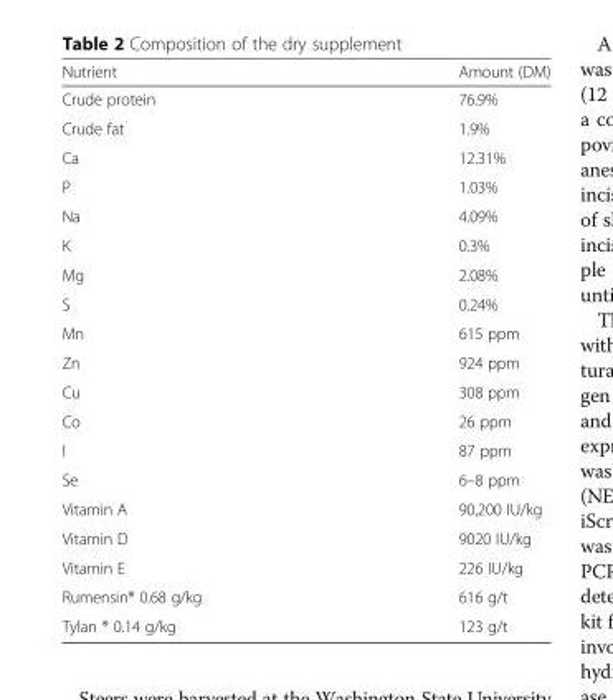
<table><thead><tr><td>Nutrient</td><td>Amount (DM)</td></tr></thead><tbody><tr><td>Crude protein</td><td>76.9%</td></tr><tr><td>Crude fat</td><td>1.9%</td></tr><tr><td>Ca</td><td>12.31%</td></tr><tr><td>P</td><td>1.03%</td></tr><tr><td>Na</td><td>4.09%</td></tr><tr><td>K</td><td>0.3%</td></tr><tr><td>Mg</td><td>2.08%</td></tr><tr><td>S</td><td>0.24%</td></tr><tr><td>Mn</td><td>615 ppm</td></tr><tr><td>Zn</td><td>924 ppm</td></tr><tr><td>Cu</td><td>308 ppm</td></tr><tr><td>Co</td><td>26 ppm</td></tr><tr><td>I</td><td>87 ppm</td></tr><tr><td>Se</td><td>6–8 ppm</td></tr><tr><td>Vitamin A</td><td>90,200 IU/kg</td></tr><tr><td>Vitamin D</td><td>9020 IU/kg</td></tr><tr><td>Vitamin E</td><td>226 IU/kg</td></tr><tr><td>Rumensin® 0.68 g/kg</td><td>616 g/t</td></tr><tr><td>Tylan ® 0.14 g/kg</td><td>123 g/t</td></tr></tbody></table>